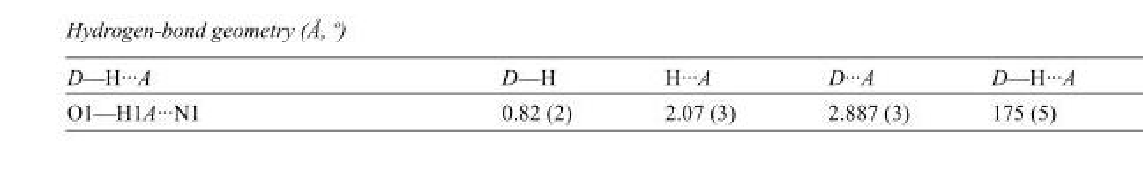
<table><tbody><tr><td>D—H···A</td><td>D—H</td><td>H···A</td><td>D···A</td><td>D—H···A</td></tr><tr><td>O1—H1A···N1</td><td>0.82 (2)</td><td>2.07 (3)</td><td>2.887 (3)</td><td>175 (5)</td></tr></tbody></table>